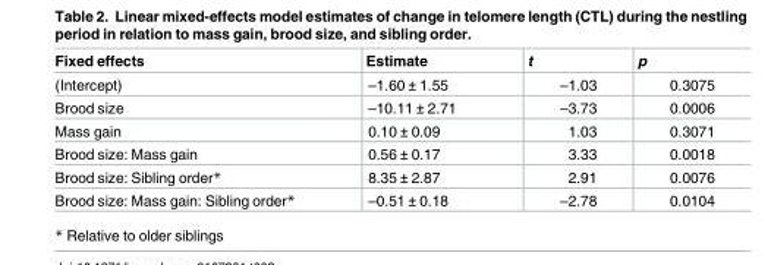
<table><thead><tr><td>Fixed effects</td><td>Estimate</td><td>t</td><td>p</td></tr></thead><tbody><tr><td>(Intercept)</td><td>–1.60 ± 1.55</td><td>–1.03</td><td>0.3075</td></tr><tr><td>Brood size</td><td>–10.11 ± 2.71</td><td>–3.73</td><td>0.0006</td></tr><tr><td>Mass gain</td><td>0.10 ± 0.09</td><td>1.03</td><td>0.3071</td></tr><tr><td>Brood size: Mass gain</td><td>0.56 ± 0.17</td><td>3.33</td><td>0.0018</td></tr><tr><td>Brood size: Sibling order*</td><td>8.35 ± 2.87</td><td>2.91</td><td>0.0076</td></tr><tr><td>Brood size: Mass gain: Sibling order*</td><td>–0.51 ± 0.18</td><td>–2.78</td><td>0.0104</td></tr></tbody></table>